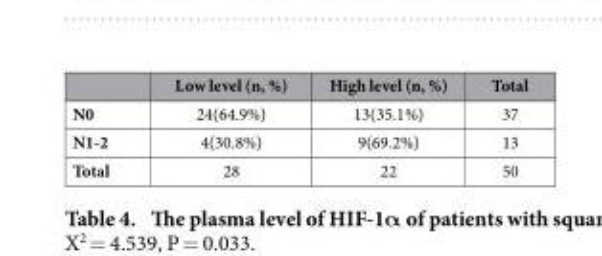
<table><thead><tr><td></td><td>Low level (n, %)</td><td>High level (n, %)</td><td>Total</td></tr></thead><tbody><tr><td>N0</td><td>24(64.9%)</td><td>13(35.1%)</td><td>37</td></tr><tr><td>N1-2</td><td>4(30.8%)</td><td>9(69.2%)</td><td>13</td></tr><tr><td>Total</td><td>28</td><td>22</td><td>50</td></tr></tbody></table>